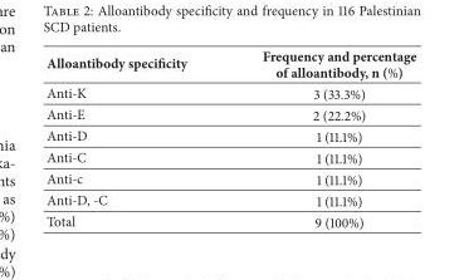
<table><thead><tr><td>Alloantibody specificity</td><td>Frequency and percentage of alloantibody, n (%)</td></tr></thead><tbody><tr><td>Anti-K</td><td>3 (33.3%)</td></tr><tr><td>Anti-E</td><td>2 (22.2%)</td></tr><tr><td>Anti-D</td><td>1 (11.1%)</td></tr><tr><td>Anti-C</td><td>1 (11.1%)</td></tr><tr><td>Anti-c</td><td>1 (11.1%)</td></tr><tr><td>Anti-D, -C</td><td>1 (11.1%)</td></tr><tr><td>Total</td><td>9 (100%)</td></tr></tbody></table>